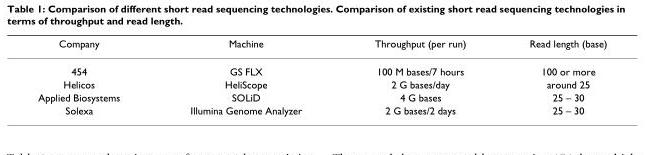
<table><thead><tr><td>Company</td><td>Machine</td><td>Throughput (per run)</td><td>Read length (base)</td></tr></thead><tbody><tr><td>454</td><td>GS FLX</td><td>100 M bases/7 hours</td><td>100 or more</td></tr><tr><td>Helicos</td><td>HeliScope</td><td>2 G bases/day</td><td>around 25</td></tr><tr><td>Applied Biosystems</td><td>SOLiD</td><td>4 G bases</td><td>25 – 30</td></tr><tr><td>Solexa</td><td>Illumina Genome Analyzer</td><td>2 G bases/2 days</td><td>25 – 30</td></tr></tbody></table>